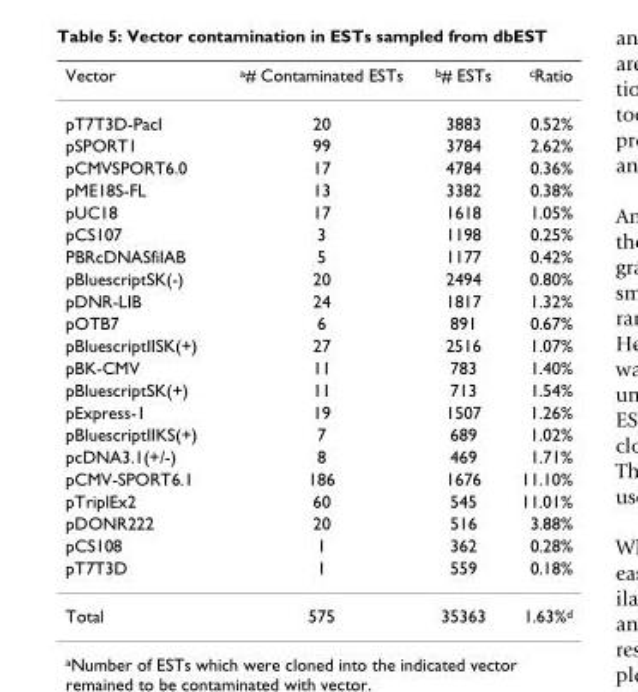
<table><thead><tr><td>Vector</td><td><sup>a</sup># Contaminated ESTs</td><td><sup>b</sup># ESTs</td><td><sup>c</sup>Ratio</td></tr></thead><tbody><tr><td>pT7T3D-PacI</td><td>20</td><td>3883</td><td>0.52%</td></tr><tr><td>pSPORT1</td><td>99</td><td>3784</td><td>2.62%</td></tr><tr><td>pCMVSPORT6.0</td><td>17</td><td>4784</td><td>0.36%</td></tr><tr><td>pME18S-FL</td><td>13</td><td>3382</td><td>0.38%</td></tr><tr><td>pUC18</td><td>17</td><td>1618</td><td>1.05%</td></tr><tr><td>pCS107</td><td>3</td><td>1198</td><td>0.25%</td></tr><tr><td>PBRcDNASfiIAB</td><td>5</td><td>1177</td><td>0.42%</td></tr><tr><td>pBluescriptSK(-)</td><td>20</td><td>2494</td><td>0.80%</td></tr><tr><td>pDNR-LIB</td><td>24</td><td>1817</td><td>1.32%</td></tr><tr><td>pOTB7</td><td>6</td><td>891</td><td>0.67%</td></tr><tr><td>pBluescriptIISK(+)</td><td>27</td><td>2516</td><td>1.07%</td></tr><tr><td>pBK-CMV</td><td>11</td><td>783</td><td>1.40%</td></tr><tr><td>pBluescriptSK(+)</td><td>11</td><td>713</td><td>1.54%</td></tr><tr><td>pExpress-1</td><td>19</td><td>1507</td><td>1.26%</td></tr><tr><td>pBluescriptIIKS(+)</td><td>7</td><td>689</td><td>1.02%</td></tr><tr><td>pcDNA3.1(+/-)</td><td>8</td><td>469</td><td>1.71%</td></tr><tr><td>pCMV-SPORT6.1</td><td>186</td><td>1676</td><td>11.10%</td></tr><tr><td>pTriplEx2</td><td>60</td><td>545</td><td>11.01%</td></tr><tr><td>pDONR222</td><td>20</td><td>516</td><td>3.88%</td></tr><tr><td>pCS108</td><td>1</td><td>362</td><td>0.28%</td></tr><tr><td>pT7T3D</td><td>1</td><td>559</td><td>0.18%</td></tr><tr><td>Total</td><td>575</td><td>35363</td><td>1.63%<sup>d</sup></td></tr></tbody></table>